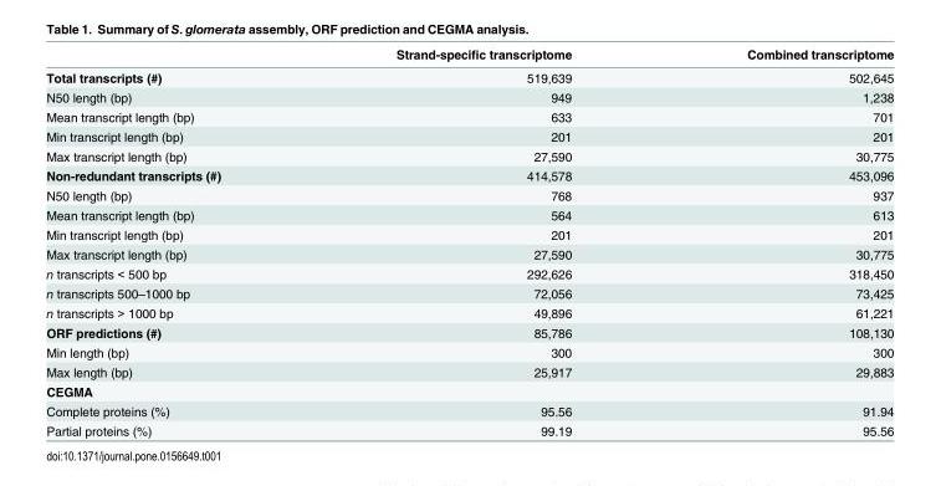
<table><thead><tr><td></td><td>Strand-specific transcriptome</td><td>Combined transcriptome</td></tr></thead><tbody><tr><td>Total transcripts (#)</td><td>519,639</td><td>502,645</td></tr><tr><td>N50 length (bp)</td><td>949</td><td>1,238</td></tr><tr><td>Mean transcript length (bp)</td><td>633</td><td>701</td></tr><tr><td>Min transcript length (bp)</td><td>201</td><td>201</td></tr><tr><td>Max transcript length (bp)</td><td>27,590</td><td>30,775</td></tr><tr><td>Non-redundant transcripts (#)</td><td>414,578</td><td>453,096</td></tr><tr><td>N50 length (bp)</td><td>768</td><td>937</td></tr><tr><td>Mean transcript length (bp)</td><td>564</td><td>613</td></tr><tr><td>Min transcript length (bp)</td><td>201</td><td>201</td></tr><tr><td>Max transcript length (bp)</td><td>27,590</td><td>30,775</td></tr><tr><td>n transcripts &lt; 500 bp</td><td>292,626</td><td>318,450</td></tr><tr><td>n transcripts 500–1000 bp</td><td>72,056</td><td>73,425</td></tr><tr><td>n transcripts &gt; 1000 bp</td><td>49,896</td><td>61,221</td></tr><tr><td>ORF predictions (#)</td><td>85,786</td><td>108,130</td></tr><tr><td>Min length (bp)</td><td>300</td><td>300</td></tr><tr><td>Max length (bp)</td><td>25,917</td><td>29,883</td></tr><tr><td colspan="3">CEGMA</td></tr><tr><td>Complete proteins (%)</td><td>95.56</td><td>91.94</td></tr><tr><td>Partial proteins (%)</td><td>99.19</td><td>95.56</td></tr></tbody></table>